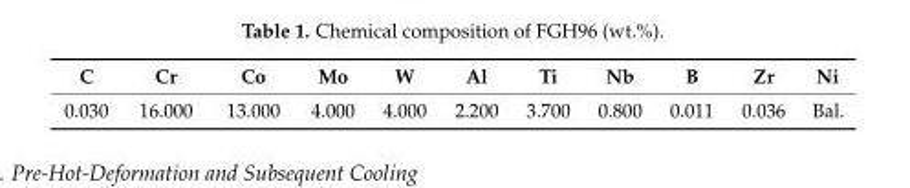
<table><thead><tr><td>C</td><td>Cr</td><td>Co</td><td>Mo</td><td>W</td><td>Al</td><td>Ti</td><td>Nb</td><td>B</td><td>Zr</td><td>Ni</td></tr></thead><tbody><tr><td>0.030</td><td>16.000</td><td>13.000</td><td>4.000</td><td>4.000</td><td>2.200</td><td>3.700</td><td>0.800</td><td>0.011</td><td>0.036</td><td>Bal.</td></tr></tbody></table>